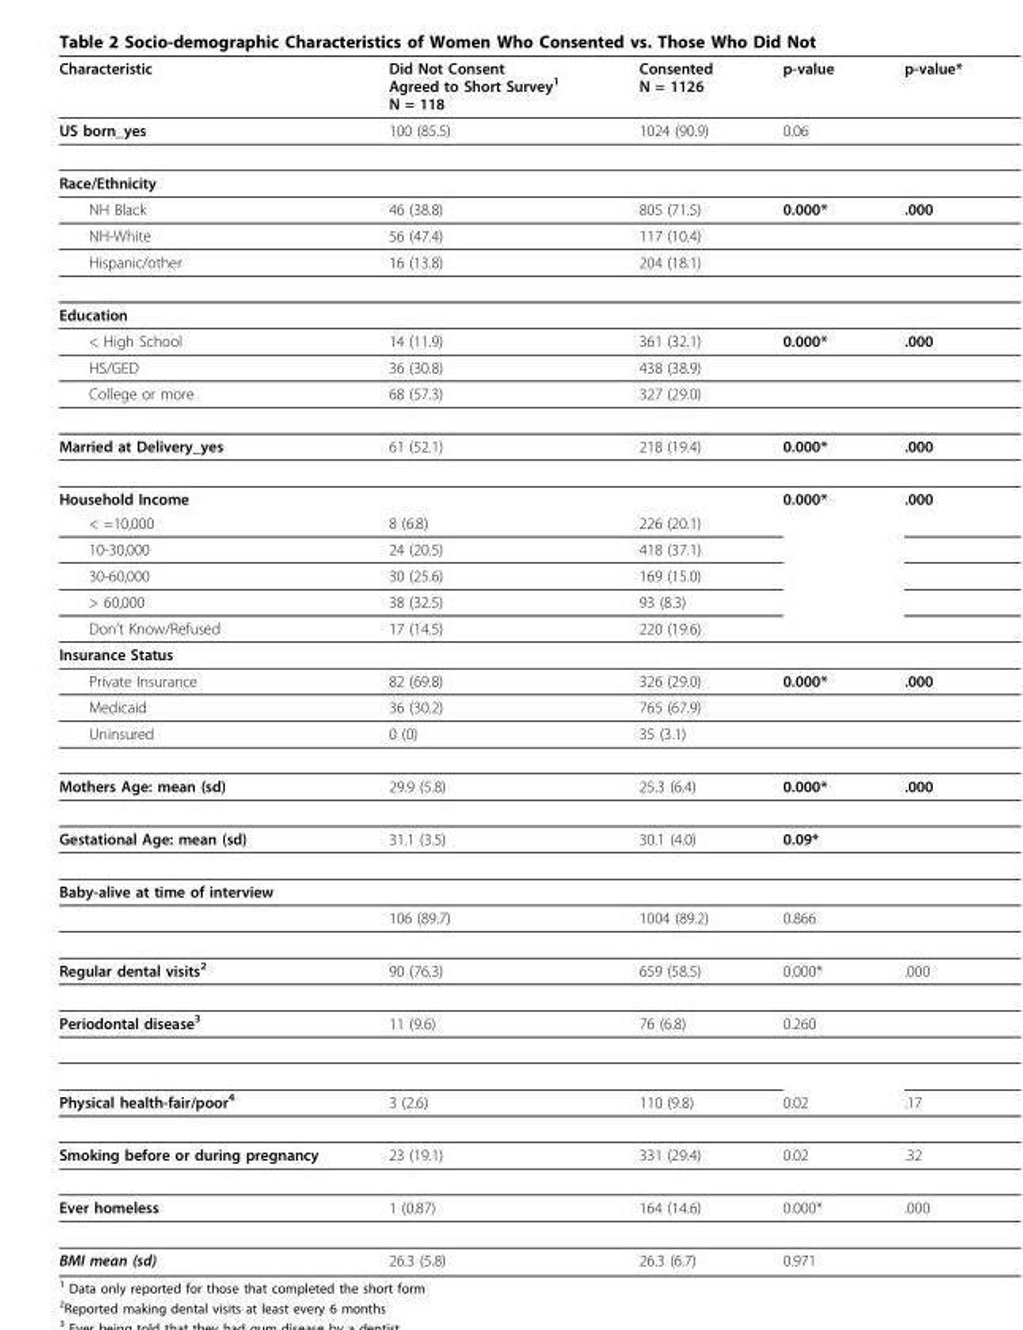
<table><thead><tr><td>Characteristic</td><td>Did Not Consent Agreed to Short Survey1 N = 118</td><td>Consented N = 1126</td><td>p-value</td><td>p-value*</td></tr></thead><tbody><tr><td>US born_yes</td><td>100 (85.5)</td><td>1024 (90.9)</td><td>0.06</td><td></td></tr><tr><td colspan="5">Race/Ethnicity</td></tr><tr><td>NH Black</td><td>46 (38.8)</td><td>805 (71.5)</td><td>0.000*</td><td>.000</td></tr><tr><td>NH-White</td><td>56 (47.4)</td><td>117 (10.4)</td><td></td><td></td></tr><tr><td>Hispanic/other</td><td>16 (13.8)</td><td>204 (18.1)</td><td></td><td></td></tr><tr><td colspan="5">Education</td></tr><tr><td>&lt; High School</td><td>14 (11.9)</td><td>361 (32.1)</td><td>0.000*</td><td>.000</td></tr><tr><td>HS/GED</td><td>36 (30.8)</td><td>438 (38.9)</td><td></td><td></td></tr><tr><td>College or more</td><td>68 (57.3)</td><td>327 (29.0)</td><td></td><td></td></tr><tr><td>Married at Delivery_yes</td><td>61 (52.1)</td><td>218 (19.4)</td><td>0.000*</td><td>.000</td></tr><tr><td>Household Income</td><td></td><td></td><td>0.000*</td><td>.000</td></tr><tr><td>&lt; =10,000</td><td>8 (6.8)</td><td>226 (20.1)</td><td></td><td></td></tr><tr><td>10-30,000</td><td>24 (20.5)</td><td>418 (37.1)</td><td></td><td></td></tr><tr><td>30-60,000</td><td>30 (25.6)</td><td>169 (15.0)</td><td></td><td></td></tr><tr><td>&gt; 60,000</td><td>38 (32.5)</td><td>93 (8.3)</td><td></td><td></td></tr><tr><td>Don’t Know/Refused</td><td>17 (14.5)</td><td>220 (19.6)</td><td></td><td></td></tr><tr><td colspan="5">Insurance Status</td></tr><tr><td>Private Insurance</td><td>82 (69.8)</td><td>326 (29.0)</td><td>0.000*</td><td>.000</td></tr><tr><td>Medicaid</td><td>36 (30.2)</td><td>765 (67.9)</td><td></td><td></td></tr><tr><td>Uninsured</td><td>0 (0)</td><td>35 (3.1)</td><td></td><td></td></tr><tr><td>Mothers Age: mean (sd)</td><td>29.9 (5.8)</td><td>25.3 (6.4)</td><td>0.000*</td><td>.000</td></tr><tr><td>Gestational Age: mean (sd)</td><td>31.1 (3.5)</td><td>30.1 (4.0)</td><td>0.09*</td><td></td></tr><tr><td colspan="5">Baby-alive at time of interview</td></tr><tr><td></td><td>106 (89.7)</td><td>1004 (89.2)</td><td>0.866</td><td></td></tr><tr><td>Regular dental visits2</td><td>90 (76.3)</td><td>659 (58.5)</td><td>0.000*</td><td>.000</td></tr><tr><td>Periodontal disease3</td><td>11 (9.6)</td><td>76 (6.8)</td><td>0.260</td><td></td></tr><tr><td>Physical health-fair/poor4</td><td>3 (2.6)</td><td>110 (9.8)</td><td>0.02</td><td>.17</td></tr><tr><td>Smoking before or during pregnancy</td><td>23 (19.1)</td><td>331 (29.4)</td><td>0.02</td><td>.32</td></tr><tr><td>Ever homeless</td><td>1 (0.87)</td><td>164 (14.6)</td><td>0.000*</td><td>.000</td></tr><tr><td>BMI mean (sd)</td><td>26.3 (5.8)</td><td>26.3 (6.7)</td><td>0.971</td><td></td></tr></tbody></table>